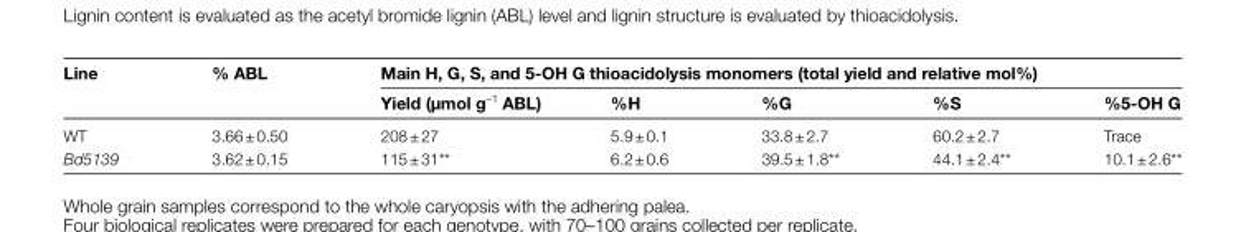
<table><thead><tr><td rowspan="2">Line</td><td rowspan="2">% ABL</td><td colspan="5">Main H, G, S, and 5-OH G thioacidolysis monomers (total yield and relative mol%)</td></tr><tr><td>Yield (μmol g<sup>–1</sup> ABL)</td><td>%H</td><td>%G</td><td>%S</td><td>%5-OH G</td></tr></thead><tbody><tr><td>WT</td><td>3.66 ± 0.50</td><td>208 ± 27</td><td>5.9 ± 0.1</td><td>33.8 ± 2.7</td><td>60.2 ± 2.7</td><td>Trace</td></tr><tr><td>Bd5139</td><td>3.62 ± 0.15</td><td>115 ± 31**</td><td>6.2 ± 0.6</td><td>39.5 ± 1.8**</td><td>44.1 ± 2.4**</td><td>10.1 ± 2.6**</td></tr></tbody></table>